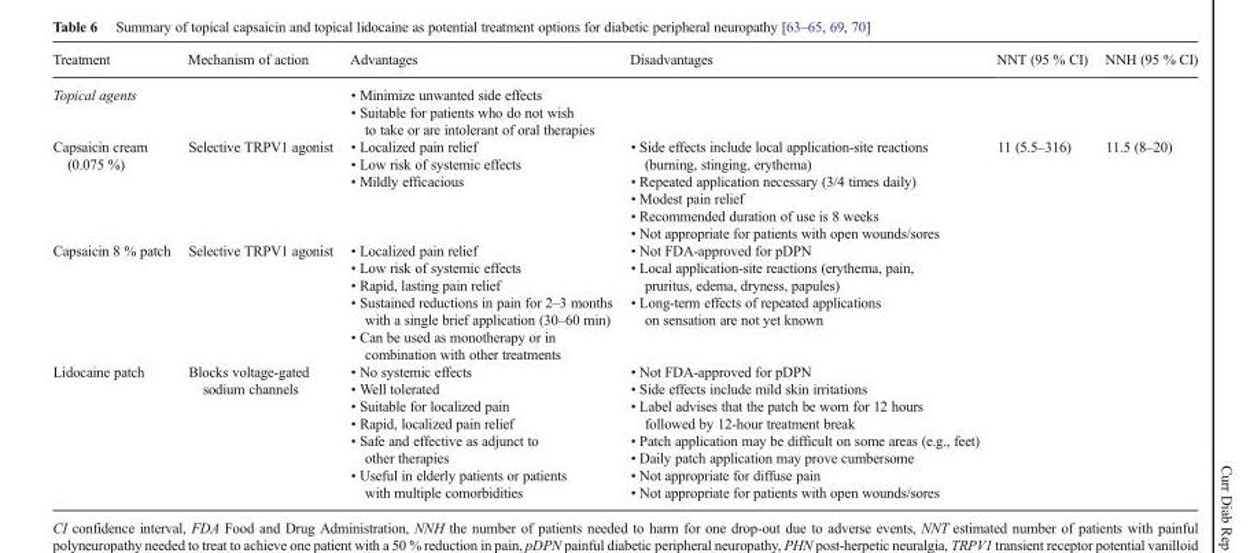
<table><thead><tr><td>Treatment</td><td>Mechanism of action</td><td>Advantages</td><td>Disadvantages</td><td>NNT (95 % CI)</td><td>NNH (95 % CI)</td></tr></thead><tbody><tr><td>Topical agents</td><td></td><td>• Minimize unwanted side effects • Suitable for patients who do not wish to take or are intolerant of oral therapies</td><td></td><td></td><td></td></tr><tr><td>Capsaicin cream (0.075 %)</td><td>Selective TRPV1 agonist</td><td>• Localized pain relief • Low risk of systemic effects • Mildly efficacious</td><td>• Side effects include local application-site reactions (burning, stinging, erythema) • Repeated application necessary (3/4 times daily) • Modest pain relief • Recommended duration of use is 8 weeks • Not appropriate for patients with open wounds/sores</td><td>11 (5.5–316)</td><td>11.5 (8–20)</td></tr><tr><td>Capsaicin 8 % patch</td><td>Selective TRPV1 agonist</td><td>• Localized pain relief • Low risk of systemic effects • Rapid, lasting pain relief • Sustained reductions in pain for 2–3 months with a single brief application (30–60 min) • Can be used as monotherapy or in combination with other treatments</td><td>• Not FDA-approved for pDPN • Local application-site reactions (erythema, pain, pruritus, edema, dryness, papules) • Long-term effects of repeated applications on sensation are not yet known</td><td></td><td></td></tr><tr><td>Lidocaine patch</td><td>Blocks voltage-gated sodium channels</td><td>• No systemic effects • Well tolerated • Suitable for localized pain • Rapid, localized pain relief • Safe and effective as adjunct to other therapies • Useful in elderly patients or patients with multiple comorbidities</td><td>• Not FDA-approved for pDPN • Side effects include mild skin irritations • Label advises that the patch be worn for 12 hours followed by 12-hour treatment break • Patch application may be difficult on some areas (e.g., feet) • Daily patch application may prove cumbersome • Not appropriate for diffuse pain • Not appropriate for patients with open wounds/sores</td><td></td><td></td></tr></tbody></table>